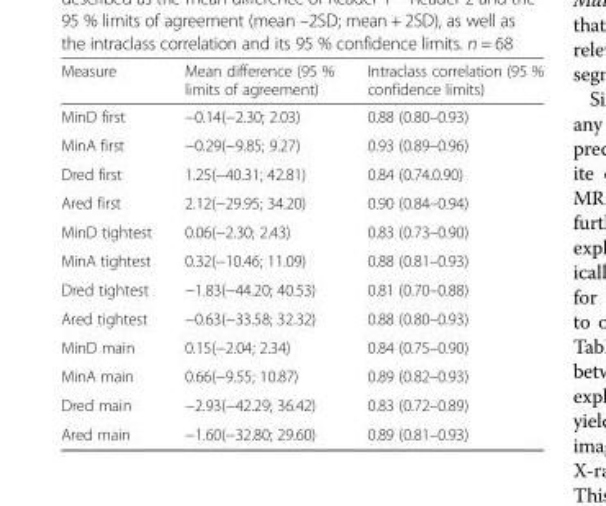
<table><thead><tr><td>Measure</td><td>Mean difference (95 % limits of agreement)</td><td>Intraclass correlation (95 % confidence limits)</td></tr></thead><tbody><tr><td>MinD first</td><td>−0.14(−2.30; 2.03)</td><td>0.88 (0.80–0.93)</td></tr><tr><td>MinA first</td><td>−0.29(−9.85; 9.27)</td><td>0.93 (0.89–0.96)</td></tr><tr><td>Dred first</td><td>1.25(−40.31; 42.81)</td><td>0.84 (0.74.0.90)</td></tr><tr><td>Ared first</td><td>2.12(−29.95; 34.20)</td><td>0.90 (0.84–0.94)</td></tr><tr><td>MinD tightest</td><td>0.06(−2.30; 2.43)</td><td>0.83 (0.73–0.90)</td></tr><tr><td>MinA tightest</td><td>0.32(−10.46; 11.09)</td><td>0.88 (0.81–0.93)</td></tr><tr><td>Dred tightest</td><td>−1.83(−44.20; 40.53)</td><td>0.81 (0.70–0.88)</td></tr><tr><td>Ared tightest</td><td>−0.63(−33.58; 32.32)</td><td>0.88 (0.80–0.93)</td></tr><tr><td>MinD main</td><td>0.15(−2.04; 2.34)</td><td>0.84 (0.75–0.90)</td></tr><tr><td>MinA main</td><td>0.66(−9.55; 10.87)</td><td>0.89 (0.82–0.93)</td></tr><tr><td>Dred main</td><td>−2.93(−42.29; 36.42)</td><td>0.83 (0.72–0.89)</td></tr><tr><td>Ared main</td><td>−1.60(−32.80; 29.60)</td><td>0.89 (0.81–0.93)</td></tr></tbody></table>